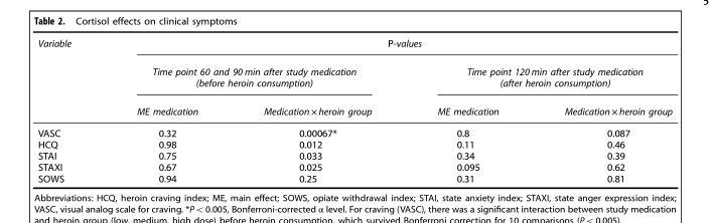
<table><thead><tr><td rowspan="3">Variable</td><td colspan="4">P-values</td></tr><tr><td colspan="2">Time point 60 and 90 min after study medication (before heroin consumption)</td><td colspan="2">Time point 120 min after study medication (after heroin consumption)</td></tr><tr><td>ME medication</td><td>Medication × heroin group</td><td>ME medication</td><td>Medication × heroin group</td></tr></thead><tbody><tr><td>VASC</td><td>0.32</td><td>0.00067*</td><td>0.8</td><td>0.087</td></tr><tr><td>HCQ</td><td>0.98</td><td>0.012</td><td>0.11</td><td>0.46</td></tr><tr><td>STAI</td><td>0.75</td><td>0.033</td><td>0.34</td><td>0.39</td></tr><tr><td>STAXI</td><td>0.67</td><td>0.025</td><td>0.095</td><td>0.62</td></tr><tr><td>SOWS</td><td>0.94</td><td>0.25</td><td>0.31</td><td>0.81</td></tr></tbody></table>